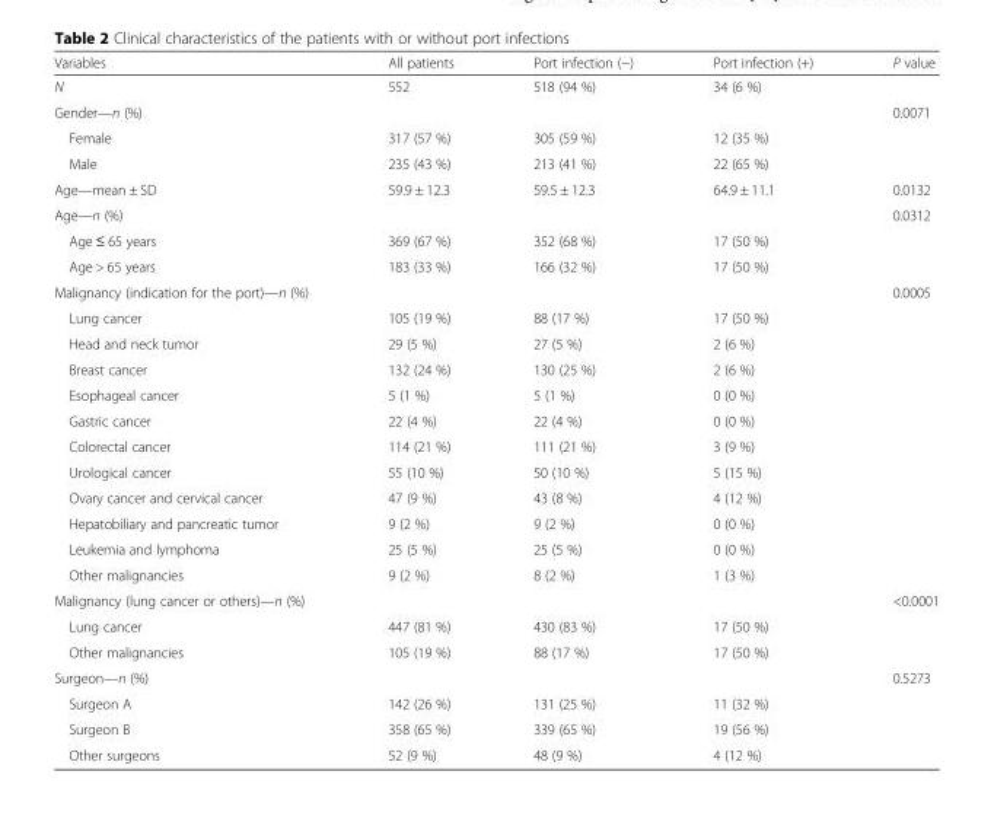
<table><thead><tr><td>Variables</td><td>All patients</td><td>Port infection (−)</td><td>Port infection (+)</td><td>P value</td></tr></thead><tbody><tr><td>N</td><td>552</td><td>518 (94 %)</td><td>34 (6 %)</td><td></td></tr><tr><td>Gender—n (%)</td><td></td><td></td><td></td><td>0.0071</td></tr><tr><td>Female</td><td>317 (57 %)</td><td>305 (59 %)</td><td>12 (35 %)</td><td></td></tr><tr><td>Male</td><td>235 (43 %)</td><td>213 (41 %)</td><td>22 (65 %)</td><td></td></tr><tr><td>Age—mean ± SD</td><td>59.9 ± 12.3</td><td>59.5 ± 12.3</td><td>64.9 ± 11.1</td><td>0.0132</td></tr><tr><td>Age—n (%)</td><td></td><td></td><td></td><td>0.0312</td></tr><tr><td>Age ≤ 65 years</td><td>369 (67 %)</td><td>352 (68 %)</td><td>17 (50 %)</td><td></td></tr><tr><td>Age &gt; 65 years</td><td>183 (33 %)</td><td>166 (32 %)</td><td>17 (50 %)</td><td></td></tr><tr><td>Malignancy (indication for the port)—n (%)</td><td></td><td></td><td></td><td>0.0005</td></tr><tr><td>Lung cancer</td><td>105 (19 %)</td><td>88 (17 %)</td><td>17 (50 %)</td><td></td></tr><tr><td>Head and neck tumor</td><td>29 (5 %)</td><td>27 (5 %)</td><td>2 (6 %)</td><td></td></tr><tr><td>Breast cancer</td><td>132 (24 %)</td><td>130 (25 %)</td><td>2 (6 %)</td><td></td></tr><tr><td>Esophageal cancer</td><td>5 (1 %)</td><td>5 (1 %)</td><td>0 (0 %)</td><td></td></tr><tr><td>Gastric cancer</td><td>22 (4 %)</td><td>22 (4 %)</td><td>0 (0 %)</td><td></td></tr><tr><td>Colorectal cancer</td><td>114 (21 %)</td><td>111 (21 %)</td><td>3 (9 %)</td><td></td></tr><tr><td>Urological cancer</td><td>55 (10 %)</td><td>50 (10 %)</td><td>5 (15 %)</td><td></td></tr><tr><td>Ovary cancer and cervical cancer</td><td>47 (9 %)</td><td>43 (8 %)</td><td>4 (12 %)</td><td></td></tr><tr><td>Hepatobiliary and pancreatic tumor</td><td>9 (2 %)</td><td>9 (2 %)</td><td>0 (0 %)</td><td></td></tr><tr><td>Leukemia and lymphoma</td><td>25 (5 %)</td><td>25 (5 %)</td><td>0 (0 %)</td><td></td></tr><tr><td>Other malignancies</td><td>9 (2 %)</td><td>8 (2 %)</td><td>1 (3 %)</td><td></td></tr><tr><td>Malignancy (lung cancer or others)—n (%)</td><td></td><td></td><td></td><td>&lt;0.0001</td></tr><tr><td>Lung cancer</td><td>447 (81 %)</td><td>430 (83 %)</td><td>17 (50 %)</td><td></td></tr><tr><td>Other malignancies</td><td>105 (19 %)</td><td>88 (17 %)</td><td>17 (50 %)</td><td></td></tr><tr><td>Surgeon—n (%)</td><td></td><td></td><td></td><td>0.5273</td></tr><tr><td>Surgeon A</td><td>142 (26 %)</td><td>131 (25 %)</td><td>11 (32 %)</td><td></td></tr><tr><td>Surgeon B</td><td>358 (65 %)</td><td>339 (65 %)</td><td>19 (56 %)</td><td></td></tr><tr><td>Other surgeons</td><td>52 (9 %)</td><td>48 (9 %)</td><td>4 (12 %)</td><td></td></tr></tbody></table>